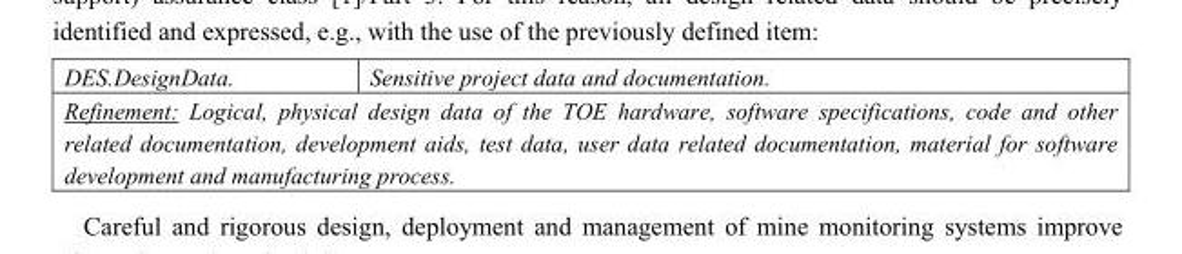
<table><tbody><tr><td>DES.DesignData.</td><td>Sensitive project data and documentation.</td></tr><tr><td colspan="2">Refinement: Logical, physical design data of the TOE hardware, software specifications, code and other related documentation, development aids, test data, user data related documentation, material for software development and manufacturing process.</td></tr></tbody></table>